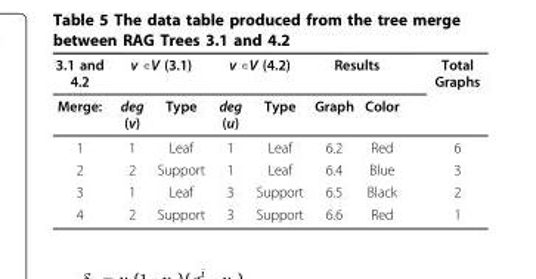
<table><thead><tr><td rowspan="2">3.1 and 4.2 Merge:</td><td colspan="2">v ∊V (3.1)</td><td colspan="2">v ∊V (4.2)</td><td colspan="2">Results</td><td rowspan="2">Total Graphs</td></tr><tr><td>deg (v)</td><td>Type</td><td>deg (u)</td><td>Type</td><td>Graph</td><td>Color</td></tr></thead><tbody><tr><td>1</td><td>1</td><td>Leaf</td><td>1</td><td>Leaf</td><td>6.2</td><td>Red</td><td>6</td></tr><tr><td>2</td><td>2</td><td>Support</td><td>1</td><td>Leaf</td><td>6.4</td><td>Blue</td><td>3</td></tr><tr><td>3</td><td>1</td><td>Leaf</td><td>3</td><td>Support</td><td>6.5</td><td>Black</td><td>2</td></tr><tr><td>4</td><td>2</td><td>Support</td><td>3</td><td>Support</td><td>6.6</td><td>Red</td><td>1</td></tr></tbody></table>